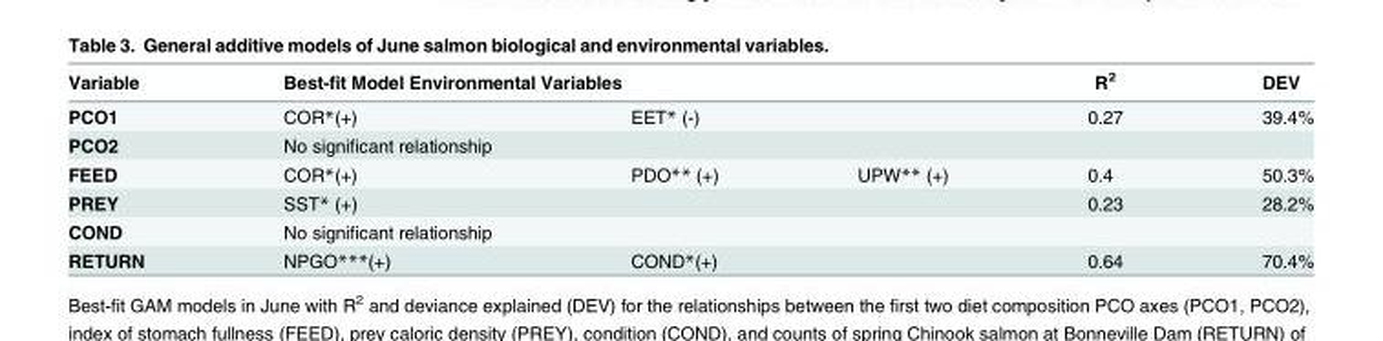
<table><thead><tr><td rowspan="2">Variable PCO1</td><td colspan="3">Best-fit Model Environmental Variables</td><td rowspan="2">R<sup>2</sup> 0.27</td><td rowspan="2">DEV 39.4%</td></tr><tr><td>COR*(+)</td><td>EET* (-)</td><td></td></tr></thead><tbody><tr><td>PCO2</td><td>No significant relationship</td><td></td><td></td><td></td><td></td></tr><tr><td>FEED</td><td>COR*(+)</td><td>PDO** (+)</td><td>UPW** (+)</td><td>0.4</td><td>50.3%</td></tr><tr><td>PREY</td><td>SST* (+)</td><td></td><td></td><td>0.23</td><td>28.2%</td></tr><tr><td>COND</td><td>No significant relationship</td><td></td><td></td><td></td><td></td></tr><tr><td>RETURN</td><td>NPGO***(+)</td><td>COND*(+)</td><td></td><td>0.64</td><td>70.4%</td></tr></tbody></table>